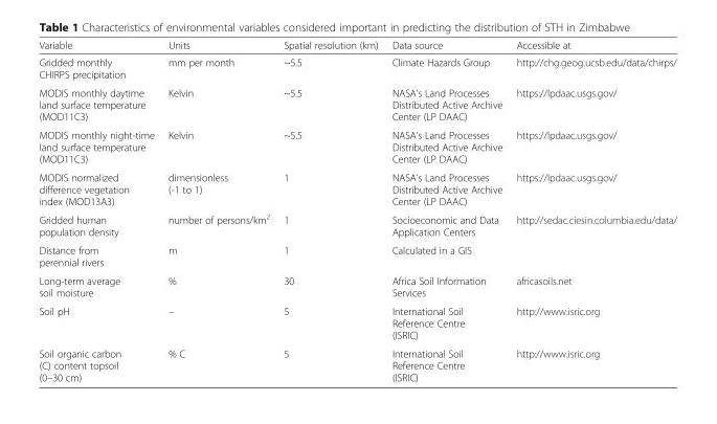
<table><thead><tr><td>Variable</td><td>Units</td><td>Spatial resolution (km)</td><td>Data source</td><td>Accessible at</td></tr></thead><tbody><tr><td>Gridded monthly CHIRPS precipitation</td><td>mm per month</td><td>~5.5</td><td>Climate Hazards Group</td><td>http://chg.geog.ucsb.edu/data/chirps/</td></tr><tr><td>MODIS monthly daytime land surface temperature (MOD11C3)</td><td>Kelvin</td><td>~5.5</td><td>NASA’s Land Processes Distributed Active Archive Center (LP DAAC)</td><td>https://lpdaac.usgs.gov/</td></tr><tr><td>MODIS monthly night-time land surface temperature (MOD11C3)</td><td>Kelvin</td><td>~5.5</td><td>NASA’s Land Processes Distributed Active Archive Center (LP DAAC)</td><td>https://lpdaac.usgs.gov/</td></tr><tr><td>MODIS normalized difference vegetation index (MOD13A3)</td><td>dimensionless (-1 to 1)</td><td>1</td><td>NASA’s Land Processes Distributed Active Archive Center (LP DAAC)</td><td>https://lpdaac.usgs.gov/</td></tr><tr><td>Gridded human population density</td><td>number of persons/km<sup>2</sup></td><td>1</td><td>Socioeconomic and Data Application Centers</td><td>http://sedac.ciesin.columbia.edu/data/</td></tr><tr><td>Distance from perennial rivers</td><td>m</td><td>1</td><td>Calculated in a GIS</td><td></td></tr><tr><td>Long-term average soil moisture</td><td>%</td><td>30</td><td>Africa Soil Information Services</td><td>africasoils.net</td></tr><tr><td>Soil pH</td><td>–</td><td>5</td><td>International Soil Reference Centre (ISRIC)</td><td>http://www.isric.org</td></tr><tr><td>Soil organic carbon (C) content topsoil (0–30 cm)</td><td>% C</td><td>5</td><td>International Soil Reference Centre (ISRIC)</td><td>http://www.isric.org</td></tr></tbody></table>